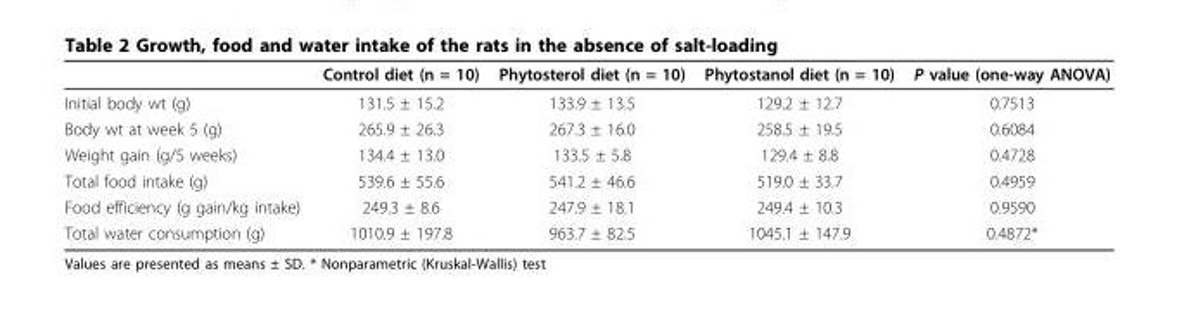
<table><thead><tr><td></td><td>Control diet (n = 10)</td><td>Phytosterol diet (n = 10)</td><td>Phytostanol diet (n = 10)</td><td>P value (one-way ANOVA)</td></tr></thead><tbody><tr><td>Initial body wt (g)</td><td>131.5 ± 15.2</td><td>133.9 ± 13.5</td><td>129.2 ± 12.7</td><td>0.7513</td></tr><tr><td>Body wt at week 5 (g)</td><td>265.9 ± 26.3</td><td>267.3 ± 16.0</td><td>258.5 ± 19.5</td><td>0.6084</td></tr><tr><td>Weight gain (g/5 weeks)</td><td>134.4 ± 13.0</td><td>133.5 ± 5.8</td><td>129.4 ± 8.8</td><td>0.4728</td></tr><tr><td>Total food intake (g)</td><td>539.6 ± 55.6</td><td>541.2 ± 46.6</td><td>519.0 ± 33.7</td><td>0.4959</td></tr><tr><td>Food efficiency (g gain/kg intake)</td><td>249.3 ± 8.6</td><td>247.9 ± 18.1</td><td>249.4 ± 10.3</td><td>0.9590</td></tr><tr><td>Total water consumption (g)</td><td>1010.9 ± 197.8</td><td>963.7 ± 82.5</td><td>1045.1 ± 147.9</td><td>0.4872*</td></tr></tbody></table>